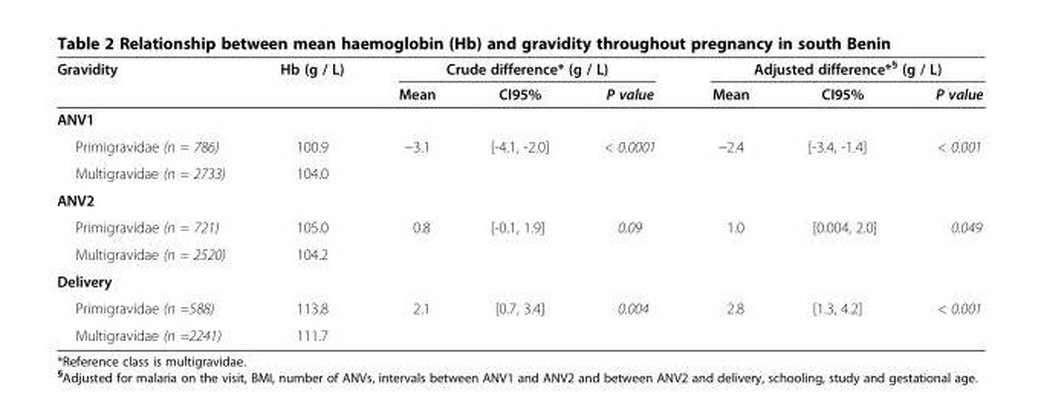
<table><thead><tr><td rowspan="2">Gravidity</td><td rowspan="2">Hb (g / L)</td><td colspan="3">Crude difference* (g / L)</td><td colspan="3">Adjusted difference*<sup>§</sup> (g / L)</td></tr><tr><td>Mean</td><td>CI95%</td><td>P value</td><td>Mean</td><td>CI95%</td><td>P value</td></tr></thead><tbody><tr><td colspan="8">ANV1</td></tr><tr><td>Primigravidae (n = 786)</td><td>100.9</td><td>−3.1</td><td>[-4.1, -2.0]</td><td>&lt; 0.0001</td><td>−2.4</td><td>[-3.4, -1.4]</td><td>&lt; 0.001</td></tr><tr><td>Multigravidae (n = 2733)</td><td>104.0</td><td></td><td></td><td></td><td></td><td></td><td></td></tr><tr><td colspan="8">ANV2</td></tr><tr><td>Primigravidae (n = 721)</td><td>105.0</td><td>0.8</td><td>[-0.1, 1.9]</td><td>0.09</td><td>1.0</td><td>[0.004, 2.0]</td><td>0.049</td></tr><tr><td>Multigravidae (n = 2520)</td><td>104.2</td><td></td><td></td><td></td><td></td><td></td><td></td></tr><tr><td colspan="8">Delivery</td></tr><tr><td>Primigravidae (n =588)</td><td>113.8</td><td>2.1</td><td>[0.7, 3.4]</td><td>0.004</td><td>2.8</td><td>[1.3, 4.2]</td><td>&lt; 0.001</td></tr><tr><td>Multigravidae (n =2241)</td><td>111.7</td><td></td><td></td><td></td><td></td><td></td><td></td></tr></tbody></table>